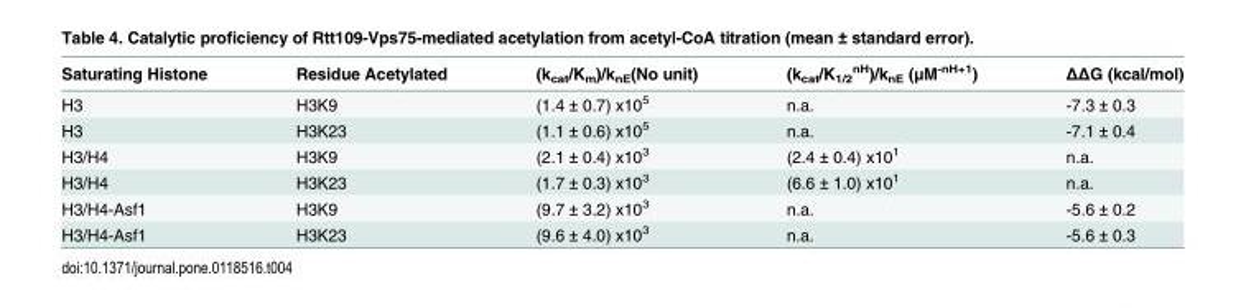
<table><thead><tr><td>Saturating Histone</td><td>Residue Acetylated</td><td>(k<sub>cat</sub>/K<sub>m</sub>)/k<sub>nE</sub>(No unit)</td><td>(k<sub>cat</sub>/K<sub>1/2</sub> <sup>nH</sup>)/k<sub>nE</sub> (μM<sup>-nH+1</sup>)</td><td>ΔΔG (kcal/mol)</td></tr></thead><tbody><tr><td>H3</td><td>H3K9</td><td>(1.4 ± 0.7) x10<sup>5</sup></td><td>n.a.</td><td>-7.3 ± 0.3</td></tr><tr><td>H3</td><td>H3K23</td><td>(1.1 ± 0.6) x10<sup>5</sup></td><td>n.a.</td><td>-7.1 ± 0.4</td></tr><tr><td>H3/H4</td><td>H3K9</td><td>(2.1 ± 0.4) x10<sup>3</sup></td><td>(2.4 ± 0.4) x10<sup>1</sup></td><td>n.a.</td></tr><tr><td>H3/H4</td><td>H3K23</td><td>(1.7 ± 0.3) x10<sup>3</sup></td><td>(6.6 ± 1.0) x10<sup>1</sup></td><td>n.a.</td></tr><tr><td>H3/H4-Asf1</td><td>H3K9</td><td>(9.7 ± 3.2) x10<sup>3</sup></td><td>n.a.</td><td>-5.6 ± 0.2</td></tr><tr><td>H3/H4-Asf1</td><td>H3K23</td><td>(9.6 ± 4.0) x10<sup>3</sup></td><td>n.a.</td><td>-5.6 ± 0.3</td></tr></tbody></table>